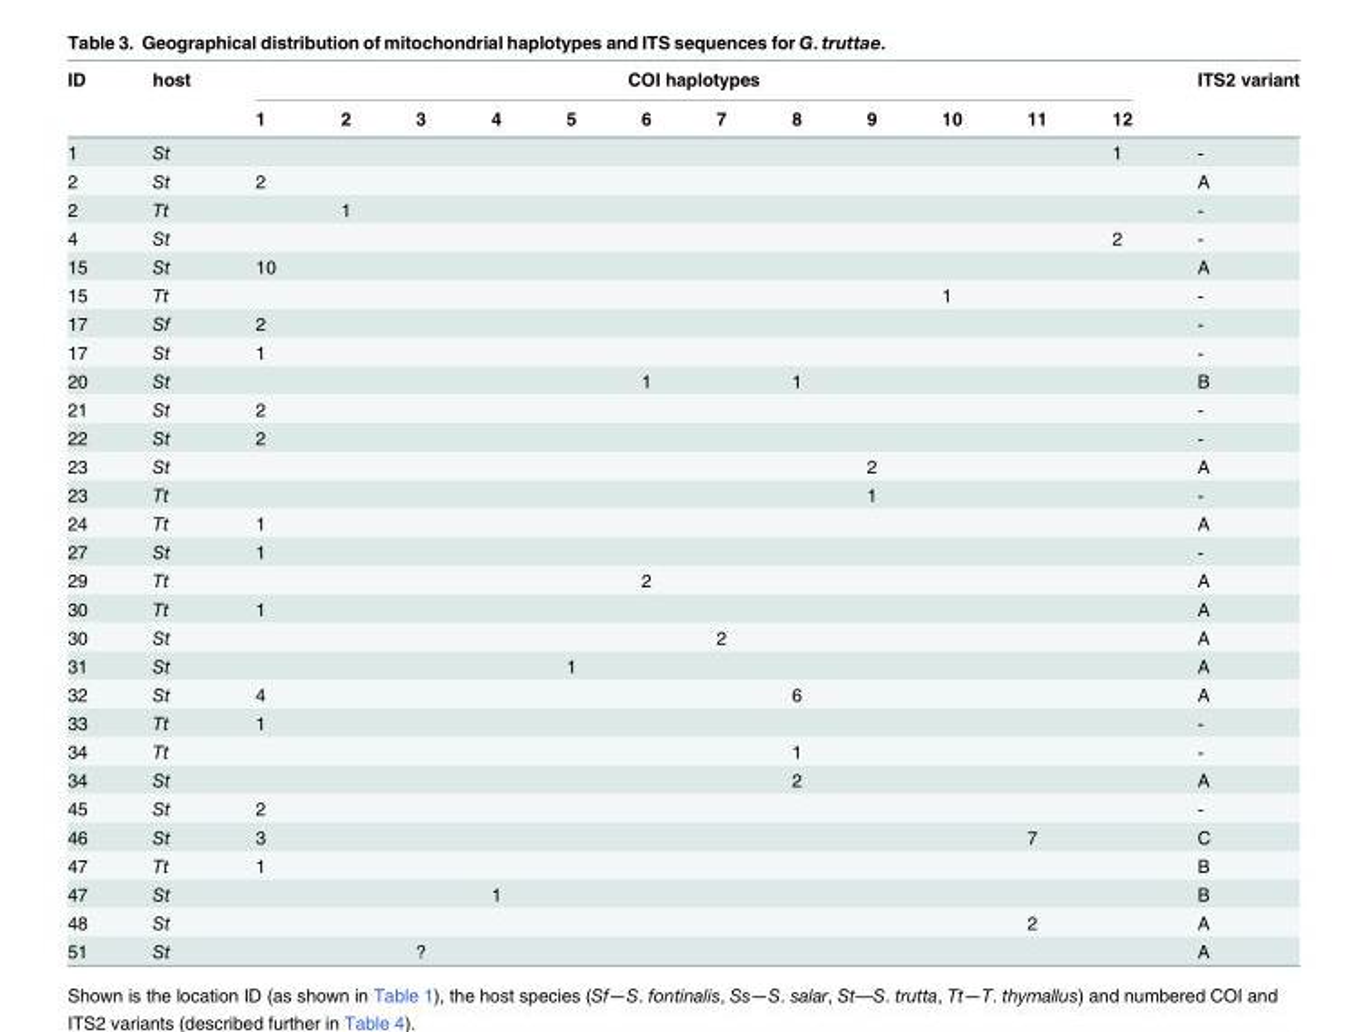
<table><thead><tr><td rowspan="2">ID</td><td rowspan="2">host</td><td colspan="12">COI haplotypes</td><td rowspan="2">ITS2 variant</td></tr><tr><td>1</td><td>2</td><td>3</td><td>4</td><td>5</td><td>6</td><td>7</td><td>8</td><td>9</td><td>10</td><td>11</td><td>12</td></tr></thead><tbody><tr><td>1</td><td>St</td><td></td><td></td><td></td><td></td><td></td><td></td><td></td><td></td><td></td><td></td><td></td><td>1</td><td>-</td></tr><tr><td>2</td><td>St</td><td>2</td><td></td><td></td><td></td><td></td><td></td><td></td><td></td><td></td><td></td><td></td><td></td><td>A</td></tr><tr><td>2</td><td>Tt</td><td></td><td>1</td><td></td><td></td><td></td><td></td><td></td><td></td><td></td><td></td><td></td><td></td><td>-</td></tr><tr><td>4</td><td>St</td><td></td><td></td><td></td><td></td><td></td><td></td><td></td><td></td><td></td><td></td><td></td><td>2</td><td>-</td></tr><tr><td>15</td><td>St</td><td>10</td><td></td><td></td><td></td><td></td><td></td><td></td><td></td><td></td><td></td><td></td><td></td><td>A</td></tr><tr><td>15</td><td>Tt</td><td></td><td></td><td></td><td></td><td></td><td></td><td></td><td></td><td></td><td>1</td><td></td><td></td><td>-</td></tr><tr><td>17</td><td>Sf</td><td>2</td><td></td><td></td><td></td><td></td><td></td><td></td><td></td><td></td><td></td><td></td><td></td><td>-</td></tr><tr><td>17</td><td>St</td><td>1</td><td></td><td></td><td></td><td></td><td></td><td></td><td></td><td></td><td></td><td></td><td></td><td>-</td></tr><tr><td>20</td><td>St</td><td></td><td></td><td></td><td></td><td></td><td>1</td><td></td><td>1</td><td></td><td></td><td></td><td></td><td>B</td></tr><tr><td>21</td><td>St</td><td>2</td><td></td><td></td><td></td><td></td><td></td><td></td><td></td><td></td><td></td><td></td><td></td><td>-</td></tr><tr><td>22</td><td>St</td><td>2</td><td></td><td></td><td></td><td></td><td></td><td></td><td></td><td></td><td></td><td></td><td></td><td>-</td></tr><tr><td>23</td><td>St</td><td></td><td></td><td></td><td></td><td></td><td></td><td></td><td></td><td>2</td><td></td><td></td><td></td><td>A</td></tr><tr><td>23</td><td>Tt</td><td></td><td></td><td></td><td></td><td></td><td></td><td></td><td></td><td>1</td><td></td><td></td><td></td><td>-</td></tr><tr><td>24</td><td>Tt</td><td>1</td><td></td><td></td><td></td><td></td><td></td><td></td><td></td><td></td><td></td><td></td><td></td><td>A</td></tr><tr><td>27</td><td>St</td><td>1</td><td></td><td></td><td></td><td></td><td></td><td></td><td></td><td></td><td></td><td></td><td></td><td>-</td></tr><tr><td>29</td><td>Tt</td><td></td><td></td><td></td><td></td><td></td><td>2</td><td></td><td></td><td></td><td></td><td></td><td></td><td>A</td></tr><tr><td>30</td><td>Tt</td><td>1</td><td></td><td></td><td></td><td></td><td></td><td></td><td></td><td></td><td></td><td></td><td></td><td>A</td></tr><tr><td>30</td><td>St</td><td></td><td></td><td></td><td></td><td></td><td></td><td>2</td><td></td><td></td><td></td><td></td><td></td><td>A</td></tr><tr><td>31</td><td>St</td><td></td><td></td><td></td><td></td><td>1</td><td></td><td></td><td></td><td></td><td></td><td></td><td></td><td>A</td></tr><tr><td>32</td><td>St</td><td>4</td><td></td><td></td><td></td><td></td><td></td><td></td><td>6</td><td></td><td></td><td></td><td></td><td>A</td></tr><tr><td>33</td><td>Tt</td><td>1</td><td></td><td></td><td></td><td></td><td></td><td></td><td></td><td></td><td></td><td></td><td></td><td>-</td></tr><tr><td>34</td><td>Tt</td><td></td><td></td><td></td><td></td><td></td><td></td><td></td><td>1</td><td></td><td></td><td></td><td></td><td>-</td></tr><tr><td>34</td><td>St</td><td></td><td></td><td></td><td></td><td></td><td></td><td></td><td>2</td><td></td><td></td><td></td><td></td><td>A</td></tr><tr><td>45</td><td>St</td><td>2</td><td></td><td></td><td></td><td></td><td></td><td></td><td></td><td></td><td></td><td></td><td></td><td>-</td></tr><tr><td>46</td><td>St</td><td>3</td><td></td><td></td><td></td><td></td><td></td><td></td><td></td><td></td><td></td><td>7</td><td></td><td>C</td></tr><tr><td>47</td><td>Tt</td><td>1</td><td></td><td></td><td></td><td></td><td></td><td></td><td></td><td></td><td></td><td></td><td></td><td>B</td></tr><tr><td>47</td><td>St</td><td></td><td></td><td></td><td>1</td><td></td><td></td><td></td><td></td><td></td><td></td><td></td><td></td><td>B</td></tr><tr><td>48</td><td>St</td><td></td><td></td><td></td><td></td><td></td><td></td><td></td><td></td><td></td><td></td><td>2</td><td></td><td>A</td></tr><tr><td>51</td><td>St</td><td></td><td></td><td>?</td><td></td><td></td><td></td><td></td><td></td><td></td><td></td><td></td><td></td><td>A</td></tr></tbody></table>